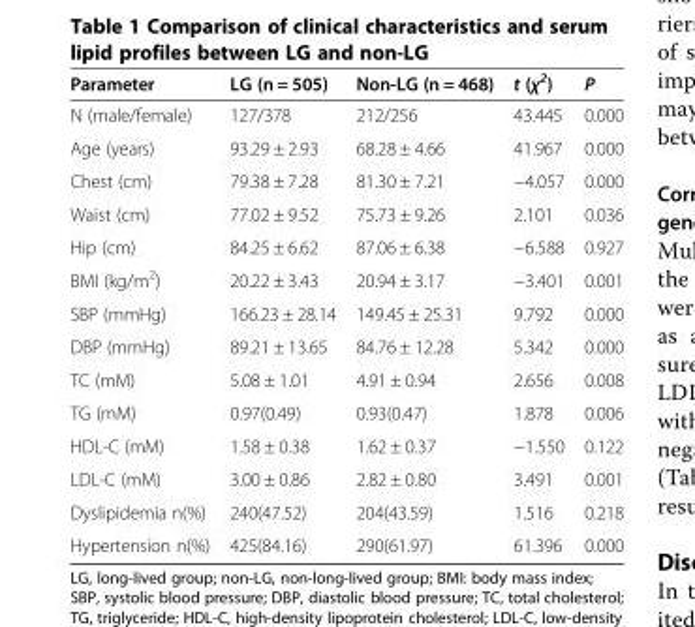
<table><thead><tr><td>Parameter</td><td>LG (n = 505)</td><td>Non-LG (n = 468)</td><td>t (χ<sup>2</sup>)</td><td>P</td></tr></thead><tbody><tr><td>N (male/female)</td><td>127/378</td><td>212/256</td><td>43.445</td><td>0.000</td></tr><tr><td>Age (years)</td><td>93.29 ± 2.93</td><td>68.28 ± 4.66</td><td>41.967</td><td>0.000</td></tr><tr><td>Chest (cm)</td><td>79.38 ± 7.28</td><td>81.30 ± 7.21</td><td>−4.057</td><td>0.000</td></tr><tr><td>Waist (cm)</td><td>77.02 ± 9.52</td><td>75.73 ± 9.26</td><td>2.101</td><td>0.036</td></tr><tr><td>Hip (cm)</td><td>84.25 ± 6.62</td><td>87.06 ± 6.38</td><td>−6.588</td><td>0.927</td></tr><tr><td>BMI (kg/m<sup>2</sup>)</td><td>20.22 ± 3.43</td><td>20.94 ± 3.17</td><td>−3.401</td><td>0.001</td></tr><tr><td>SBP (mmHg)</td><td>166.23 ± 28.14</td><td>149.45 ± 25.31</td><td>9.792</td><td>0.000</td></tr><tr><td>DBP (mmHg)</td><td>89.21 ± 13.65</td><td>84.76 ± 12.28</td><td>5.342</td><td>0.000</td></tr><tr><td>TC (mM)</td><td>5.08 ± 1.01</td><td>4.91 ± 0.94</td><td>2.656</td><td>0.008</td></tr><tr><td>TG (mM)</td><td>0.97(0.49)</td><td>0.93(0.47)</td><td>1.878</td><td>0.006</td></tr><tr><td>HDL-C (mM)</td><td>1.58 ± 0.38</td><td>1.62 ± 0.37</td><td>−1.550</td><td>0.122</td></tr><tr><td>LDL-C (mM)</td><td>3.00 ± 0.86</td><td>2.82 ± 0.80</td><td>3.491</td><td>0.001</td></tr><tr><td>Dyslipidemia n(%)</td><td>240(47.52)</td><td>204(43.59)</td><td>1.516</td><td>0.218</td></tr><tr><td>Hypertension n(%)</td><td>425(84.16)</td><td>290(61.97)</td><td>61.396</td><td>0.000</td></tr></tbody></table>